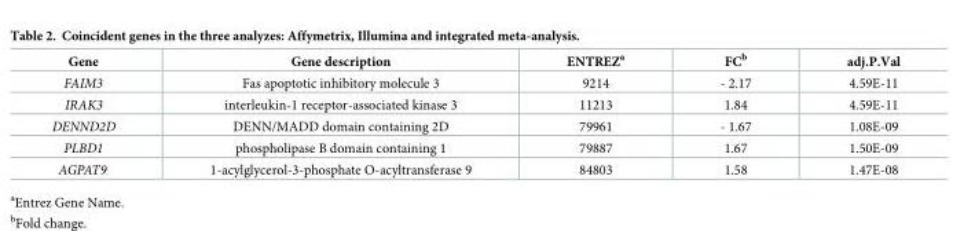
<table><thead><tr><td>Gene</td><td>Gene description</td><td>ENTREZ<sup>a</sup></td><td>FC<sup>b</sup></td><td>adj.P.Val</td></tr></thead><tbody><tr><td>FAIM3</td><td>Fas apoptotic inhibitory molecule 3</td><td>9214</td><td>- 2.17</td><td>4.59E-11</td></tr><tr><td>IRAK3</td><td>interleukin-1 receptor-associated kinase 3</td><td>11213</td><td>1.84</td><td>4.59E-11</td></tr><tr><td>DENND2D</td><td>DENN/MADD domain containing 2D</td><td>79961</td><td>- 1.67</td><td>1.08E-09</td></tr><tr><td>PLBD1</td><td>phospholipase B domain containing 1</td><td>79887</td><td>1.67</td><td>1.50E-09</td></tr><tr><td>AGPAT9</td><td>1-acylglycerol-3-phosphate O-acyltransferase 9</td><td>84803</td><td>1.58</td><td>1.47E-08</td></tr></tbody></table>